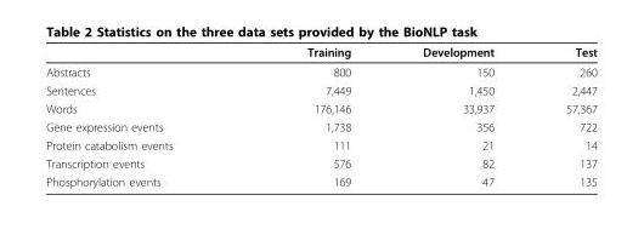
<table><thead><tr><td></td><td>Training</td><td>Development</td><td>Test</td></tr></thead><tbody><tr><td>Abstracts</td><td>800</td><td>150</td><td>260</td></tr><tr><td>Sentences</td><td>7,449</td><td>1,450</td><td>2,447</td></tr><tr><td>Words</td><td>176,146</td><td>33,937</td><td>57,367</td></tr><tr><td>Gene expression events</td><td>1,738</td><td>356</td><td>722</td></tr><tr><td>Protein catabolism events</td><td>111</td><td>21</td><td>14</td></tr><tr><td>Transcription events</td><td>576</td><td>82</td><td>137</td></tr><tr><td>Phosphorylation events</td><td>169</td><td>47</td><td>135</td></tr></tbody></table>